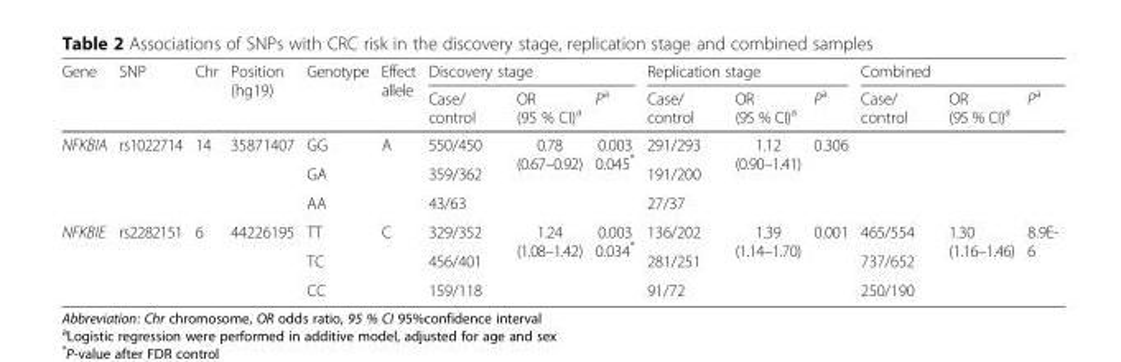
<table><thead><tr><td rowspan="2">Gene</td><td rowspan="2">SNP</td><td rowspan="2">Chr</td><td rowspan="2">Position (hg19)</td><td rowspan="2">Genotype</td><td rowspan="2">Effect allele</td><td colspan="3">Discovery stage</td><td colspan="3">Replication stage</td><td colspan="3">Combined</td></tr><tr><td>Case/ control</td><td>OR (95 % CI)<sup>a</sup></td><td>P<sup>a</sup></td><td>Case/ control</td><td>OR (95 % CI)<sup>a</sup></td><td>P<sup>a</sup></td><td>Case/ control</td><td>OR (95 % CI)<sup>a</sup></td><td>P<sup>a</sup></td></tr></thead><tbody><tr><td rowspan="3">NFKBIA</td><td>rs1022714</td><td>14</td><td>35871407</td><td>GG</td><td>A</td><td>550/450</td><td rowspan="3">0.78 (0.67–0.92)</td><td rowspan="3">0.003 0.045*</td><td>291/293</td><td rowspan="3">1.12 (0.90–1.41)</td><td rowspan="3">0.306</td><td></td><td></td><td></td></tr><tr><td></td><td></td><td></td><td>GA</td><td></td><td>359/362</td><td>191/200</td><td></td><td></td><td></td></tr><tr><td></td><td></td><td></td><td>AA</td><td></td><td>43/63</td><td>27/37</td><td></td><td></td><td></td></tr><tr><td rowspan="3">NFKBIE</td><td>rs2282151</td><td>6</td><td>44226195</td><td>TT</td><td>C</td><td>329/352</td><td rowspan="3">1.24 (1.08–1.42)</td><td rowspan="3">0.003 0.034*</td><td>136/202</td><td rowspan="3">1.39 (1.14–1.70)</td><td rowspan="3">0.001</td><td>465/554</td><td rowspan="3">1.30 (1.16–1.46)</td><td rowspan="3">8.9E- 6</td></tr><tr><td></td><td></td><td></td><td>TC</td><td></td><td>456/401</td><td>281/251</td><td>737/652</td></tr><tr><td></td><td></td><td></td><td>CC</td><td></td><td>159/118</td><td>91/72</td><td>250/190</td></tr></tbody></table>